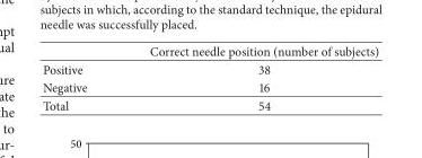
<table><thead><tr><td></td><td>Correct needle position (number of subjects)</td></tr></thead><tbody><tr><td>Positive</td><td>38</td></tr><tr><td>Negative</td><td>16</td></tr><tr><td>Total</td><td>54</td></tr></tbody></table>